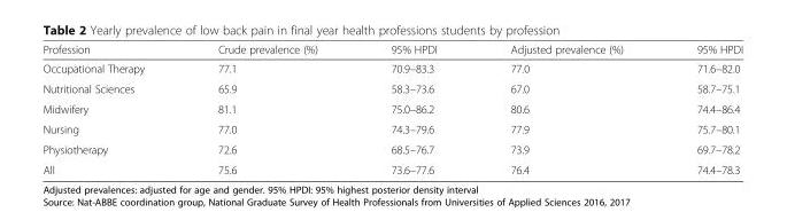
<table><thead><tr><td>Profession</td><td>Crude prevalence (%)</td><td>95% HPDI</td><td>Adjusted prevalence (%)</td><td>95% HPDI</td></tr></thead><tbody><tr><td>Occupational Therapy</td><td>77.1</td><td>70.9–83.3</td><td>77.0</td><td>71.6–82.0</td></tr><tr><td>Nutritional Sciences</td><td>65.9</td><td>58.3–73.6</td><td>67.0</td><td>58.7–75.1</td></tr><tr><td>Midwifery</td><td>81.1</td><td>75.0–86.2</td><td>80.6</td><td>74.4–86.4</td></tr><tr><td>Nursing</td><td>77.0</td><td>74.3–79.6</td><td>77.9</td><td>75.7–80.1</td></tr><tr><td>Physiotherapy</td><td>72.6</td><td>68.5–76.7</td><td>73.9</td><td>69.7–78.2</td></tr><tr><td>All</td><td>75.6</td><td>73.6–77.6</td><td>76.4</td><td>74.4–78.3</td></tr></tbody></table>